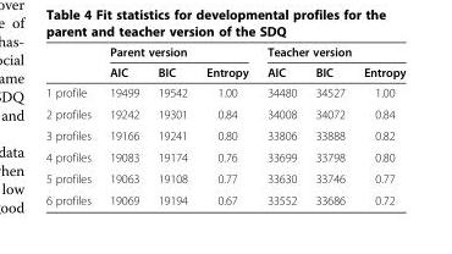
<table><thead><tr><td rowspan="2"></td><td colspan="3">Parent version</td><td colspan="3">Teacher version</td></tr><tr><td>AIC</td><td>BIC</td><td>Entropy</td><td>AIC</td><td>BIC</td><td>Entropy</td></tr></thead><tbody><tr><td>1 profile</td><td>19499</td><td>19542</td><td>1.00</td><td>34480</td><td>34527</td><td>1.00</td></tr><tr><td>2 profiles</td><td>19242</td><td>19301</td><td>0.84</td><td>34008</td><td>34072</td><td>0.84</td></tr><tr><td>3 profiles</td><td>19166</td><td>19241</td><td>0.80</td><td>33806</td><td>33888</td><td>0.82</td></tr><tr><td>4 profiles</td><td>19083</td><td>19174</td><td>0.76</td><td>33699</td><td>33798</td><td>0.80</td></tr><tr><td>5 profiles</td><td>19063</td><td>19108</td><td>0.77</td><td>33630</td><td>33746</td><td>0.77</td></tr><tr><td>6 profiles</td><td>19069</td><td>19194</td><td>0.67</td><td>33552</td><td>33686</td><td>0.72</td></tr></tbody></table>